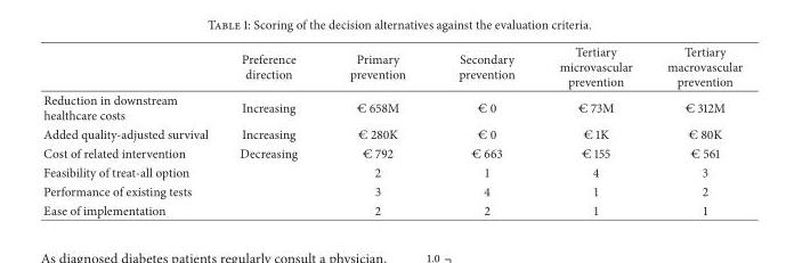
<table><thead><tr><td></td><td>Preference direction</td><td>Primary prevention</td><td>Secondary prevention</td><td>Tertiary microvascular prevention</td><td>Tertiary macrovascular prevention</td></tr></thead><tbody><tr><td>Reduction in downstream healthcare costs</td><td>Increasing</td><td>€ 658M</td><td>€ 0</td><td>€ 73M</td><td>€ 312M</td></tr><tr><td>Added quality-adjusted survival</td><td>Increasing</td><td>€ 280K</td><td>€ 0</td><td>€ 1K</td><td>€ 80K</td></tr><tr><td>Cost of related intervention</td><td>Decreasing</td><td>€ 792</td><td>€ 663</td><td>€ 155</td><td>€ 561</td></tr><tr><td>Feasibility of treat-all option</td><td></td><td>2</td><td>1</td><td>4</td><td>3</td></tr><tr><td>Performance of existing tests</td><td></td><td>3</td><td>4</td><td>1</td><td>2</td></tr><tr><td>Ease of implementation</td><td></td><td>2</td><td>2</td><td>1</td><td>1</td></tr></tbody></table>